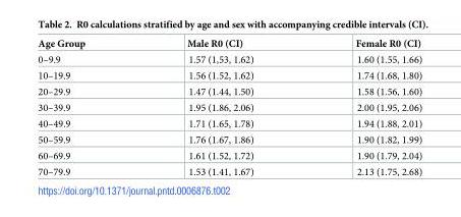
<table><thead><tr><td>Age Group</td><td>Male R0 (CI)</td><td>Female R0 (CI)</td></tr></thead><tbody><tr><td>0–9.9</td><td>1.57 (1,53, 1.62)</td><td>1.60 (1.55, 1.66)</td></tr><tr><td>10–19.9</td><td>1.56 (1.52, 1.62)</td><td>1.74 (1.68, 1.80)</td></tr><tr><td>20–29.9</td><td>1.47 (1.44, 1.50)</td><td>1.58 (1.56, 1.60)</td></tr><tr><td>30–39.9</td><td>1.95 (1.86, 2.06)</td><td>2.00 (1.95, 2.06)</td></tr><tr><td>40–49.9</td><td>1.71 (1.65, 1.78)</td><td>1.94 (1.88, 2.01)</td></tr><tr><td>50–59.9</td><td>1.76 (1.67, 1.86)</td><td>1.90 (1.82, 1.99)</td></tr><tr><td>60–69.9</td><td>1.61 (1.52, 1.72)</td><td>1.90 (1.79, 2.04)</td></tr><tr><td>70–79.9</td><td>1.53 (1.41, 1.67)</td><td>2.13 (1.75, 2.68)</td></tr></tbody></table>